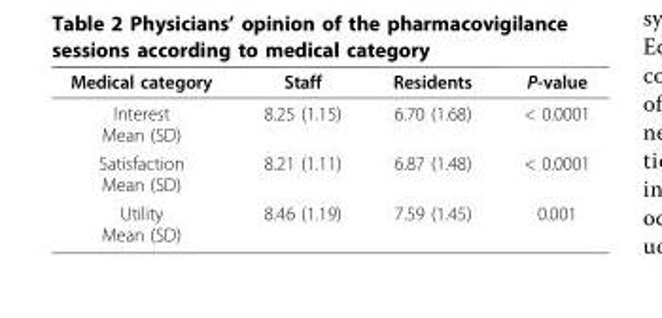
<table><thead><tr><td>Medical category</td><td>Staff</td><td>Residents</td><td>P-value</td></tr></thead><tbody><tr><td>Interest Mean (SD)</td><td>8.25 (1.15)</td><td>6.70 (1.68)</td><td>&lt; 0.0001</td></tr><tr><td>Satisfaction Mean (SD)</td><td>8.21 (1.11)</td><td>6.87 (1.48)</td><td>&lt; 0.0001</td></tr><tr><td>Utility Mean (SD)</td><td>8.46 (1.19)</td><td>7.59 (1.45)</td><td>0.001</td></tr></tbody></table>